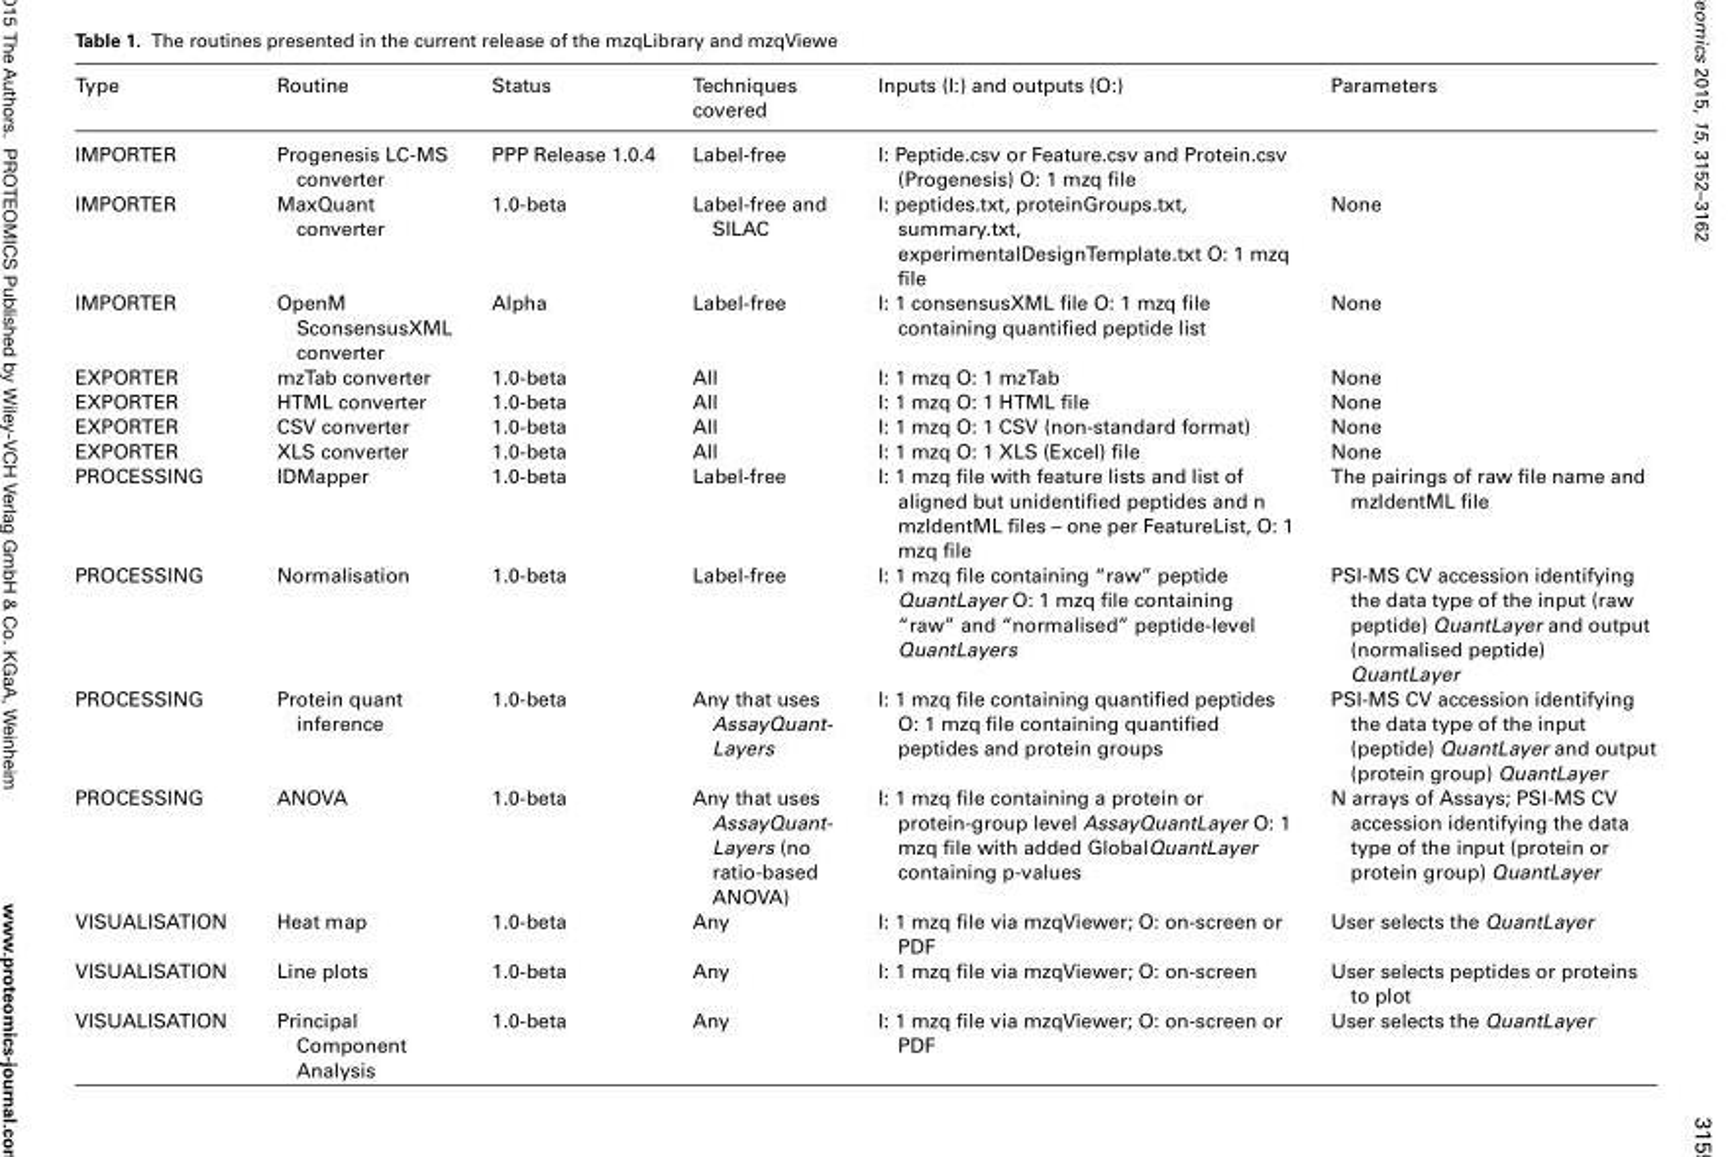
<table><thead><tr><td>Type</td><td>Routine</td><td>Status</td><td>Techniques covered</td><td>Inputs (I:) and outputs (O:)</td><td>Parameters</td></tr></thead><tbody><tr><td>IMPORTER</td><td>Progenesis LC-MS converter</td><td>PPP Release 1.0.4</td><td>Label-free</td><td>I: Peptide.csv or Feature.csv and Protein.csv (Progenesis) O: 1 mzq file</td><td></td></tr><tr><td>IMPORTER</td><td>MaxQuant converter</td><td>1.0-beta</td><td>Label-free and SILAC</td><td>I: peptides.txt, proteinGroups.txt, summary.txt, experimentalDesignTemplate.txt O: 1 mzq file</td><td>None</td></tr><tr><td>IMPORTER</td><td>OpenM SconsensusXML converter</td><td>Alpha</td><td>Label-free</td><td>I: 1 consensusXML file O: 1 mzq file containing quantified peptide list</td><td>None</td></tr><tr><td>EXPORTER</td><td>mzTab converter</td><td>1.0-beta</td><td>All</td><td>I: 1 mzq O: 1 mzTab</td><td>None</td></tr><tr><td>EXPORTER</td><td>HTML converter</td><td>1.0-beta</td><td>All</td><td>I: 1 mzq O: 1 HTML file</td><td>None</td></tr><tr><td>EXPORTER</td><td>CSV converter</td><td>1.0-beta</td><td>All</td><td>I: 1 mzq O: 1 CSV (non-standard format)</td><td>None</td></tr><tr><td>EXPORTER</td><td>XLS converter</td><td>1.0-beta</td><td>All</td><td>I: 1 mzq O: 1 XLS (Excel) file</td><td>None</td></tr><tr><td>PROCESSING</td><td>IDMapper</td><td>1.0-beta</td><td>Label-free</td><td>I: 1 mzq file with feature lists and list of aligned but unidentified peptides and n mzIdentML files – one per FeatureList, O: 1 mzq file</td><td>The pairings of raw file name and mzIdentML file</td></tr><tr><td>PROCESSING</td><td>Normalisation</td><td>1.0-beta</td><td>Label-free</td><td>I: 1 mzq file containing “raw” peptide QuantLayer O: 1 mzq file containing “raw” and “normalised” peptide-level QuantLayers</td><td>PSI-MS CV accession identifying the data type of the input (raw peptide) QuantLayer and output (normalised peptide) QuantLayer</td></tr><tr><td>PROCESSING</td><td>Protein quant inference</td><td>1.0-beta</td><td>Any that uses AssayQuant- Layers</td><td>I: 1 mzq file containing quantified peptides O: 1 mzq file containing quantified peptides and protein groups</td><td>PSI-MS CV accession identifying the data type of the input (peptide) QuantLayer and output (protein group) QuantLayer</td></tr><tr><td>PROCESSING</td><td>ANOVA</td><td>1.0-beta</td><td>Any that uses AssayQuant- Layers (no ratio-based ANOVA)</td><td>I: 1 mzq file containing a protein or protein-group level AssayQuantLayer O: 1 mzq file with added GlobalQuantLayer containing p-values</td><td>N arrays of Assays; PSI-MS CV accession identifying the data type of the input (protein or protein group) QuantLayer</td></tr><tr><td>VISUALISATION</td><td>Heat map</td><td>1.0-beta</td><td>Any</td><td>I: 1 mzq file via mzqViewer; O: on-screen or PDF</td><td>User selects the QuantLayer</td></tr><tr><td>VISUALISATION</td><td>Line plots</td><td>1.0-beta</td><td>Any</td><td>I: 1 mzq file via mzqViewer; O: on-screen</td><td>User selects peptides or proteins to plot</td></tr><tr><td>VISUALISATION</td><td>Principal Component Analysis</td><td>1.0-beta</td><td>Any</td><td>I: 1 mzq file via mzqViewer; O: on-screen or PDF</td><td>User selects the QuantLayer</td></tr></tbody></table>